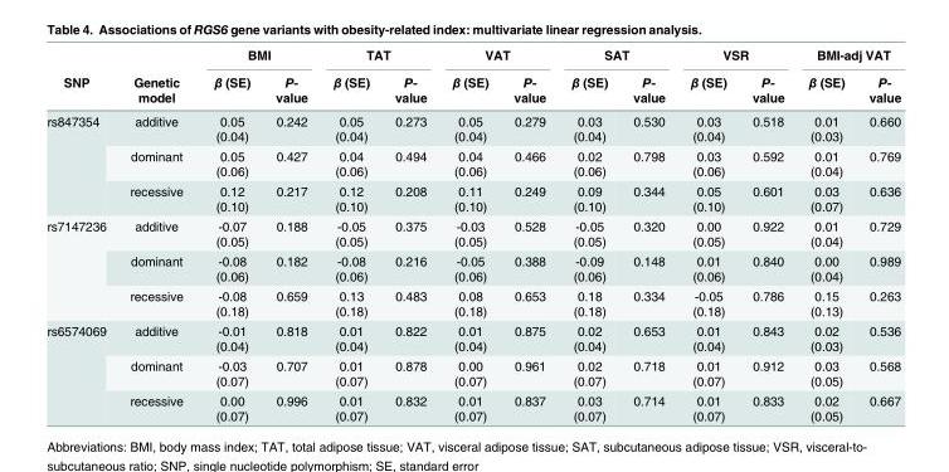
<table><thead><tr><td rowspan="2">SNP</td><td rowspan="2">Genetic model</td><td colspan="2">BMI</td><td colspan="2">TAT</td><td colspan="2">VAT</td><td colspan="2">SAT</td><td colspan="2">VSR</td><td colspan="2">BMI-adj VAT</td></tr><tr><td>β (SE)</td><td>P- value</td><td>β (SE)</td><td>P- value</td><td>β (SE)</td><td>P- value</td><td>β (SE)</td><td>P- value</td><td>β (SE)</td><td>P- value</td><td>β (SE)</td><td>P- value</td></tr></thead><tbody><tr><td rowspan="3">rs847354</td><td>additive</td><td>0.05 (0.04)</td><td>0.242</td><td>0.05 (0.04)</td><td>0.273</td><td>0.05 (0.04)</td><td>0.279</td><td>0.03 (0.04)</td><td>0.530</td><td>0.03 (0.04)</td><td>0.518</td><td>0.01 (0.03)</td><td>0.660</td></tr><tr><td>dominant</td><td>0.05 (0.06)</td><td>0.427</td><td>0.04 (0.06)</td><td>0.494</td><td>0.04 (0.06)</td><td>0.466</td><td>0.02 (0.06)</td><td>0.798</td><td>0.03 (0.06)</td><td>0.592</td><td>0.01 (0.04)</td><td>0.769</td></tr><tr><td>recessive</td><td>0.12 (0.10)</td><td>0.217</td><td>0.12 (0.10)</td><td>0.208</td><td>0.11 (0.10)</td><td>0.249</td><td>0.09 (0.10)</td><td>0.344</td><td>0.05 (0.10)</td><td>0.601</td><td>0.03 (0.07)</td><td>0.636</td></tr><tr><td rowspan="3">rs7147236</td><td>additive</td><td>-0.07 (0.05)</td><td>0.188</td><td>-0.05 (0.05)</td><td>0.375</td><td>-0.03 (0.05)</td><td>0.528</td><td>-0.05 (0.05)</td><td>0.320</td><td>0.00 (0.05)</td><td>0.922</td><td>0.01 (0.04)</td><td>0.729</td></tr><tr><td>dominant</td><td>-0.08 (0.06)</td><td>0.182</td><td>-0.08 (0.06)</td><td>0.216</td><td>-0.05 (0.06)</td><td>0.388</td><td>-0.09 (0.06)</td><td>0.148</td><td>0.01 (0.06)</td><td>0.840</td><td>0.00 (0.04)</td><td>0.989</td></tr><tr><td>recessive</td><td>-0.08 (0.18)</td><td>0.659</td><td>0.13 (0.18)</td><td>0.483</td><td>0.08 (0.18)</td><td>0.653</td><td>0.18 (0.18)</td><td>0.334</td><td>-0.05 (0.18)</td><td>0.786</td><td>0.15 (0.13)</td><td>0.263</td></tr><tr><td rowspan="3">rs6574069</td><td>additive</td><td>-0.01 (0.04)</td><td>0.818</td><td>0.01 (0.04)</td><td>0.822</td><td>0.01 (0.04)</td><td>0.875</td><td>0.02 (0.04)</td><td>0.653</td><td>0.01 (0.04)</td><td>0.843</td><td>0.02 (0.03)</td><td>0.536</td></tr><tr><td>dominant</td><td>-0.03 (0.07)</td><td>0.707</td><td>0.01 (0.07)</td><td>0.878</td><td>0.00 (0.07)</td><td>0.961</td><td>0.02 (0.07)</td><td>0.718</td><td>0.01 (0.07)</td><td>0.912</td><td>0.03 (0.05)</td><td>0.568</td></tr><tr><td>recessive</td><td>0.00 (0.07)</td><td>0.996</td><td>0.01 (0.07)</td><td>0.832</td><td>0.01 (0.07)</td><td>0.837</td><td>0.03 (0.07)</td><td>0.714</td><td>0.01 (0.07)</td><td>0.833</td><td>0.02 (0.05)</td><td>0.667</td></tr></tbody></table>